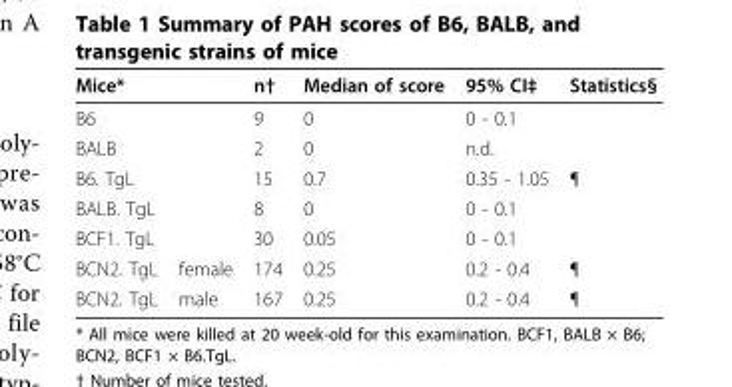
<table><thead><tr><td>Mice*</td><td></td><td>n†</td><td>Median of score</td><td>95% CI‡</td><td>Statistics§</td></tr></thead><tbody><tr><td>B6</td><td></td><td>9</td><td>0</td><td>0 - 0.1</td><td></td></tr><tr><td>BALB</td><td></td><td>2</td><td>0</td><td>n.d.</td><td></td></tr><tr><td>B6. TgL</td><td></td><td>15</td><td>0.7</td><td>0.35 - 1.05</td><td>¶</td></tr><tr><td>BALB. TgL</td><td></td><td>8</td><td>0</td><td>0 - 0.1</td><td></td></tr><tr><td>BCF1. TgL</td><td></td><td>30</td><td>0.05</td><td>0 - 0.1</td><td></td></tr><tr><td>BCN2. TgL</td><td>female</td><td>174</td><td>0.25</td><td>0.2 - 0.4</td><td>¶</td></tr><tr><td>BCN2. TgL</td><td>male</td><td>167</td><td>0.25</td><td>0.2 - 0.4</td><td>¶</td></tr></tbody></table>